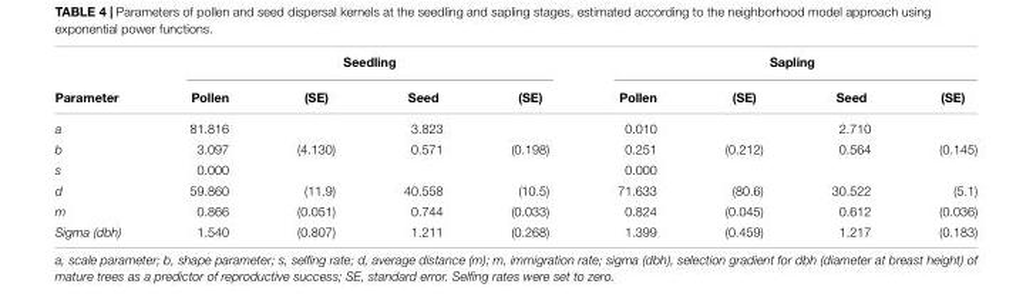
<table><thead><tr><td rowspan="2">Parameter</td><td colspan="4">Seedling</td><td colspan="4">Sapling</td></tr><tr><td>Pollen</td><td>(SE)</td><td>Seed</td><td>(SE)</td><td>Pollen</td><td>(SE)</td><td>Seed</td><td>(SE)</td></tr></thead><tbody><tr><td>a</td><td>81.816</td><td></td><td>3.823</td><td></td><td>0.010</td><td></td><td>2.710</td><td></td></tr><tr><td>b</td><td>3.097</td><td>(4.130)</td><td>0.571</td><td>(0.198)</td><td>0.251</td><td>(0.212)</td><td>0.564</td><td>(0.145)</td></tr><tr><td>s</td><td>0.000</td><td></td><td></td><td></td><td>0.000</td><td></td><td></td><td></td></tr><tr><td>d</td><td>59.860</td><td>(11.9)</td><td>40.558</td><td>(10.5)</td><td>71.633</td><td>(80.6)</td><td>30.522</td><td>(5.1)</td></tr><tr><td>m</td><td>0.866</td><td>(0.051)</td><td>0.744</td><td>(0.033)</td><td>0.824</td><td>(0.045)</td><td>0.612</td><td>(0.036)</td></tr><tr><td>Sigma (dbh)</td><td>1.540</td><td>(0.807)</td><td>1.211</td><td>(0.268)</td><td>1.399</td><td>(0.459)</td><td>1.217</td><td>(0.183)</td></tr></tbody></table>